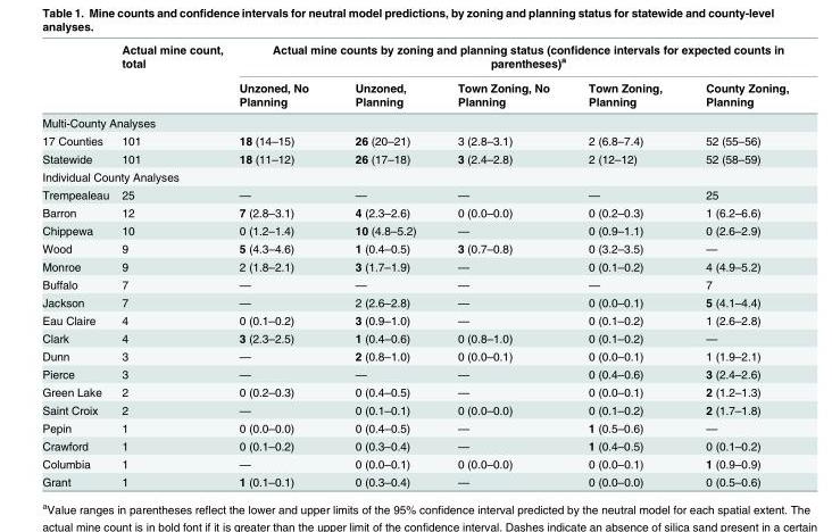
<table><thead><tr><td rowspan="2"></td><td rowspan="2">Actual mine count, total</td><td colspan="5">Actual mine counts by zoning and planning status (confidence intervals for expected counts in parentheses)<sup>a</sup></td></tr><tr><td>Unzoned, No Planning</td><td>Unzoned, Planning</td><td>Town Zoning, No Planning</td><td>Town Zoning, Planning</td><td>County Zoning, Planning</td></tr></thead><tbody><tr><td colspan="7">Multi-County Analyses</td></tr><tr><td>17 Counties</td><td>101</td><td>18 (14–15)</td><td>26 (20–21)</td><td>3 (2.8–3.1)</td><td>2 (6.8–7.4)</td><td>52 (55–56)</td></tr><tr><td>Statewide</td><td>101</td><td>18 (11–12)</td><td>26 (17–18)</td><td>3 (2.4–2.8)</td><td>2 (12–12)</td><td>52 (58–59)</td></tr><tr><td colspan="7">Individual County Analyses</td></tr><tr><td>Trempealeau</td><td>25</td><td>—</td><td>—</td><td>—</td><td>—</td><td>25</td></tr><tr><td>Barron</td><td>12</td><td>7 (2.8–3.1)</td><td>4 (2.3–2.6)</td><td>0 (0.0–0.0)</td><td>0 (0.2–0.3)</td><td>1 (6.2–6.6)</td></tr><tr><td>Chippewa</td><td>10</td><td>0 (1.2–1.4)</td><td>10 (4.8–5.2)</td><td>—</td><td>0 (0.9–1.1)</td><td>0 (2.6–2.9)</td></tr><tr><td>Wood</td><td>9</td><td>5 (4.3–4.6)</td><td>1 (0.4–0.5)</td><td>3 (0.7–0.8)</td><td>0 (3.2–3.5)</td><td>—</td></tr><tr><td>Monroe</td><td>9</td><td>2 (1.8–2.1)</td><td>3 (1.7–1.9)</td><td>—</td><td>0 (0.1–0.2)</td><td>4 (4.9–5.2)</td></tr><tr><td>Buffalo</td><td>7</td><td>—</td><td>—</td><td>—</td><td>—</td><td>7</td></tr><tr><td>Jackson</td><td>7</td><td>—</td><td>2 (2.6–2.8)</td><td>—</td><td>0 (0.0–0.1)</td><td>5 (4.1–4.4)</td></tr><tr><td>Eau Claire</td><td>4</td><td>0 (0.1–0.2)</td><td>3 (0.9–1.0)</td><td>—</td><td>0 (0.1–0.2)</td><td>1 (2.6–2.8)</td></tr><tr><td>Clark</td><td>4</td><td>3 (2.3–2.5)</td><td>1 (0.4–0.6)</td><td>0 (0.8–1.0)</td><td>0 (0.1–0.2)</td><td>—</td></tr><tr><td>Dunn</td><td>3</td><td>—</td><td>2 (0.8–1.0)</td><td>0 (0.0–0.1)</td><td>0 (0.0–0.1)</td><td>1 (1.9–2.1)</td></tr><tr><td>Pierce</td><td>3</td><td>—</td><td>—</td><td>—</td><td>0 (0.4–0.6)</td><td>3 (2.4–2.6)</td></tr><tr><td>Green Lake</td><td>2</td><td>0 (0.2–0.3)</td><td>0 (0.4–0.5)</td><td>—</td><td>0 (0.0–0.1)</td><td>2 (1.2–1.3)</td></tr><tr><td>Saint Croix</td><td>2</td><td>—</td><td>0 (0.1–0.1)</td><td>0 (0.0–0.0)</td><td>0 (0.1–0.2)</td><td>2 (1.7–1.8)</td></tr><tr><td>Pepin</td><td>1</td><td>0 (0.0–0.0)</td><td>0 (0.4–0.5)</td><td>—</td><td>1 (0.5–0.6)</td><td>—</td></tr><tr><td>Crawford</td><td>1</td><td>0 (0.1–0.2)</td><td>0 (0.3–0.4)</td><td>—</td><td>1 (0.4–0.5)</td><td>0 (0.1–0.2)</td></tr><tr><td>Columbia</td><td>1</td><td>—</td><td>0 (0.0–0.1)</td><td>0 (0.0–0.0)</td><td>0 (0.0–0.1)</td><td>1 (0.9–0.9)</td></tr><tr><td>Grant</td><td>1</td><td>1 (0.1–0.1)</td><td>0 (0.3–0.4)</td><td>—</td><td>0 (0.0–0.0)</td><td>0 (0.5–0.6)</td></tr></tbody></table>